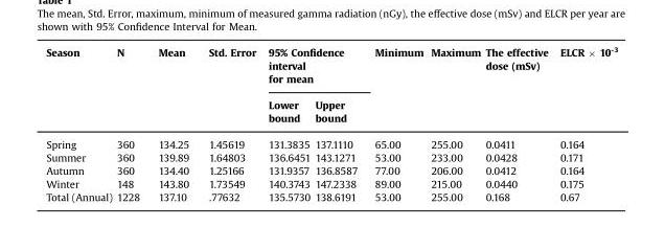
<table><thead><tr><td rowspan="2">Season</td><td rowspan="2">N</td><td rowspan="2">Mean</td><td rowspan="2">Std. Error</td><td colspan="2">95% Confidence interval for mean</td><td rowspan="2">Minimum</td><td rowspan="2">Maximum</td><td rowspan="2">The effective dose (mSv)</td><td rowspan="2">ELCR × 10<sup>-3</sup></td></tr><tr><td>Lower bound</td><td>Upper bound</td></tr></thead><tbody><tr><td>Spring</td><td>360</td><td>134.25</td><td>1.45619</td><td>131.3835</td><td>137.1110</td><td>65.00</td><td>255.00</td><td>0.0411</td><td>0.164</td></tr><tr><td>Summer</td><td>360</td><td>139.89</td><td>1.64803</td><td>136.6451</td><td>143.1271</td><td>53.00</td><td>233.00</td><td>0.0428</td><td>0.171</td></tr><tr><td>Autumn</td><td>360</td><td>134.40</td><td>1.25166</td><td>131.9357</td><td>136.8587</td><td>77.00</td><td>206.00</td><td>0.0412</td><td>0.164</td></tr><tr><td>Winter</td><td>148</td><td>143.80</td><td>1.73549</td><td>140.3743</td><td>147.2338</td><td>89.00</td><td>215.00</td><td>0.0440</td><td>0.175</td></tr><tr><td>Total (Annual)</td><td>1228</td><td>137.10</td><td>.77632</td><td>135.5730</td><td>138.6191</td><td>53.00</td><td>255.00</td><td>0.168</td><td>0.67</td></tr></tbody></table>